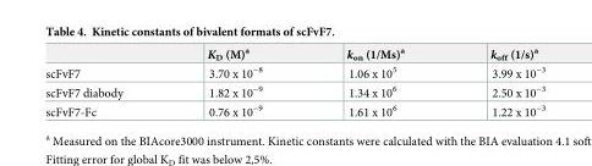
<table><thead><tr><td></td><td>K<sub>D</sub> (M)<sup>a</sup></td><td>k<sub>on</sub> (1/Ms)<sup>a</sup></td><td>k<sub>off</sub> (1/s)<sup>a</sup></td></tr></thead><tbody><tr><td>scFvF7</td><td>3.70 x 10<sup>−8</sup></td><td>1.06 x 10<sup>5</sup></td><td>3.99 x 10<sup>−3</sup></td></tr><tr><td>scFvF7 diabody</td><td>1.82 x 10<sup>−9</sup></td><td>1.34 x 10<sup>6</sup></td><td>2.50 x 10<sup>−3</sup></td></tr><tr><td>scFvF7-Fc</td><td>0.76 x 10<sup>−9</sup></td><td>1.61 x 10<sup>6</sup></td><td>1.22 x 10<sup>−3</sup></td></tr></tbody></table>